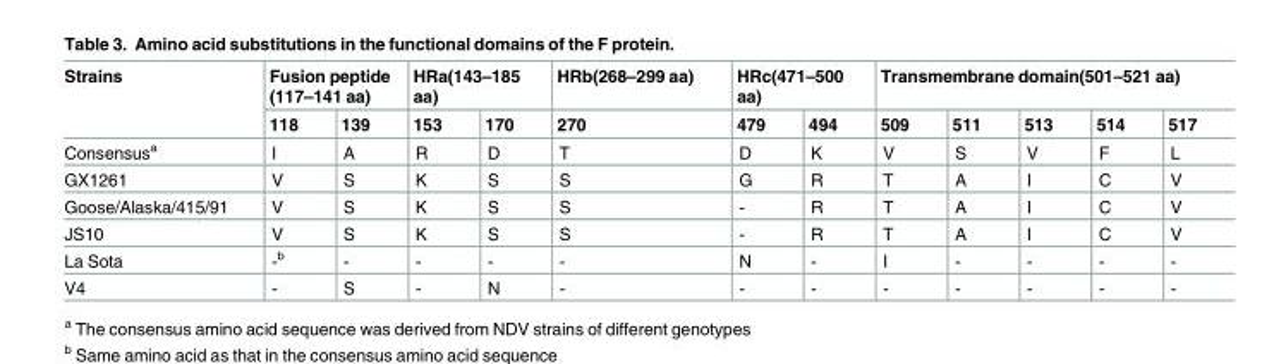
<table><thead><tr><td rowspan="2">Strains</td><td colspan="2">Fusion peptide (117–141 aa)</td><td colspan="2">HRa(143–185 aa)</td><td rowspan="2">HRb(268–299 aa) 270</td><td colspan="2">HRc(471–500 aa)</td><td colspan="5">Transmembrane domain(501–521 aa)</td></tr><tr><td>118</td><td>139</td><td>153</td><td>170</td><td>479</td><td>494</td><td>509</td><td>511</td><td>513</td><td>514</td><td>517</td></tr></thead><tbody><tr><td>Consensus<sup>a</sup></td><td>I</td><td>A</td><td>R</td><td>D</td><td>T</td><td>D</td><td>K</td><td>V</td><td>S</td><td>V</td><td>F</td><td>L</td></tr><tr><td>GX1261</td><td>V</td><td>S</td><td>K</td><td>S</td><td>S</td><td>G</td><td>R</td><td>T</td><td>A</td><td>I</td><td>C</td><td>V</td></tr><tr><td>Goose/Alaska/415/91</td><td>V</td><td>S</td><td>K</td><td>S</td><td>S</td><td>-</td><td>R</td><td>T</td><td>A</td><td>I</td><td>C</td><td>V</td></tr><tr><td>JS10</td><td>V</td><td>S</td><td>K</td><td>S</td><td>S</td><td>-</td><td>R</td><td>T</td><td>A</td><td>I</td><td>C</td><td>V</td></tr><tr><td>La Sota</td><td>-<sup>b</sup></td><td>-</td><td>-</td><td>-</td><td>-</td><td>N</td><td>-</td><td>I</td><td>-</td><td>-</td><td>-</td><td>-</td></tr><tr><td>V4</td><td>-</td><td>S</td><td>-</td><td>N</td><td>-</td><td>-</td><td>-</td><td>-</td><td>-</td><td>-</td><td>-</td><td>-</td></tr></tbody></table>